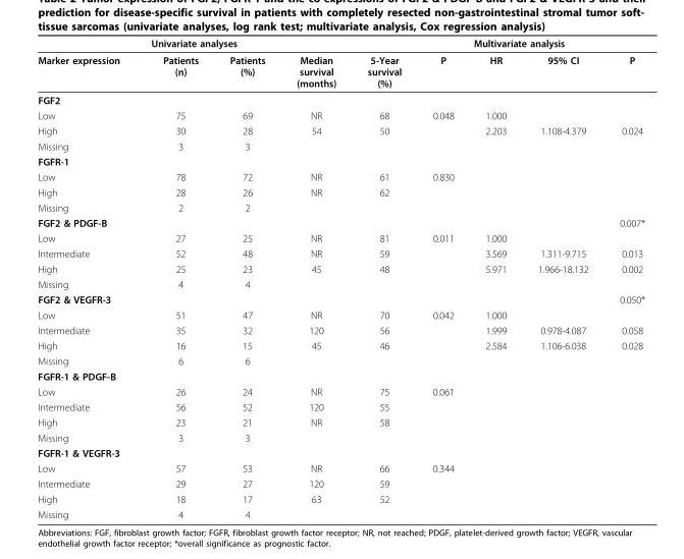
<table><thead><tr><td rowspan="2">Marker expression</td><td colspan="5">Univariate analyses</td><td colspan="3">Multivariate analysis</td></tr><tr><td>Patients (n)</td><td>Patients (%)</td><td>Median survival (months)</td><td>5-Year survival (%)</td><td>P</td><td>HR</td><td>95% CI</td><td>P</td></tr></thead><tbody><tr><td colspan="9">FGF2</td></tr><tr><td>Low</td><td>75</td><td>69</td><td>NR</td><td>68</td><td>0.048</td><td>1.000</td><td></td><td></td></tr><tr><td>High</td><td>30</td><td>28</td><td>54</td><td>50</td><td></td><td>2.203</td><td>1.108-4.379</td><td>0.024</td></tr><tr><td>Missing</td><td>3</td><td>3</td><td></td><td></td><td></td><td></td><td></td><td></td></tr><tr><td colspan="9">FGFR-1</td></tr><tr><td>Low</td><td>78</td><td>72</td><td>NR</td><td>61</td><td>0.830</td><td></td><td></td><td></td></tr><tr><td>High</td><td>28</td><td>26</td><td>NR</td><td>62</td><td></td><td></td><td></td><td></td></tr><tr><td>Missing</td><td>2</td><td>2</td><td></td><td></td><td></td><td></td><td></td><td></td></tr><tr><td>FGF2 &amp; PDGF-B</td><td></td><td></td><td></td><td></td><td></td><td></td><td></td><td>0.007*</td></tr><tr><td>Low</td><td>27</td><td>25</td><td>NR</td><td>81</td><td>0.011</td><td>1.000</td><td></td><td></td></tr><tr><td>Intermediate</td><td>52</td><td>48</td><td>NR</td><td>59</td><td></td><td>3.569</td><td>1.311-9.715</td><td>0.013</td></tr><tr><td>High</td><td>25</td><td>23</td><td>45</td><td>48</td><td></td><td>5.971</td><td>1.966-18.132</td><td>0.002</td></tr><tr><td>Missing</td><td>4</td><td>4</td><td></td><td></td><td></td><td></td><td></td><td></td></tr><tr><td>FGF2 &amp; VEGFR-3</td><td></td><td></td><td></td><td></td><td></td><td></td><td></td><td>0.050*</td></tr><tr><td>Low</td><td>51</td><td>47</td><td>NR</td><td>70</td><td>0.042</td><td>1.000</td><td></td><td></td></tr><tr><td>Intermediate</td><td>35</td><td>32</td><td>120</td><td>56</td><td></td><td>1.999</td><td>0.978-4.087</td><td>0.058</td></tr><tr><td>High</td><td>16</td><td>15</td><td>45</td><td>46</td><td></td><td>2.584</td><td>1.106-6.038</td><td>0.028</td></tr><tr><td>Missing</td><td>6</td><td>6</td><td></td><td></td><td></td><td></td><td></td><td></td></tr><tr><td colspan="9">FGFR-1 &amp; PDGF-B</td></tr><tr><td>Low</td><td>26</td><td>24</td><td>NR</td><td>75</td><td>0.061</td><td></td><td></td><td></td></tr><tr><td>Intermediate</td><td>56</td><td>52</td><td>120</td><td>55</td><td></td><td></td><td></td><td></td></tr><tr><td>High</td><td>23</td><td>21</td><td>NR</td><td>58</td><td></td><td></td><td></td><td></td></tr><tr><td>Missing</td><td>3</td><td>3</td><td></td><td></td><td></td><td></td><td></td><td></td></tr><tr><td colspan="9">FGFR-1 &amp; VEGFR-3</td></tr><tr><td>Low</td><td>57</td><td>53</td><td>NR</td><td>66</td><td>0.344</td><td></td><td></td><td></td></tr><tr><td>Intermediate</td><td>29</td><td>27</td><td>120</td><td>59</td><td></td><td></td><td></td><td></td></tr><tr><td>High</td><td>18</td><td>17</td><td>63</td><td>52</td><td></td><td></td><td></td><td></td></tr><tr><td>Missing</td><td>4</td><td>4</td><td></td><td></td><td></td><td></td><td></td><td></td></tr></tbody></table>